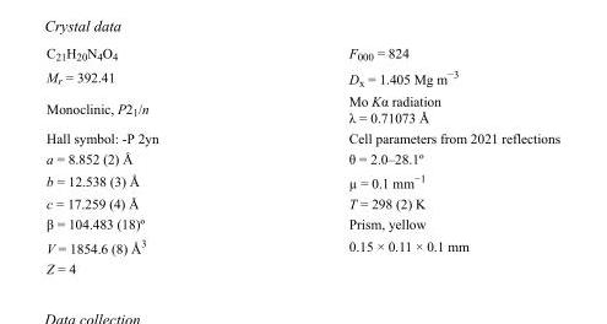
<table><tbody><tr><td>C<sub>21</sub>H<sub>20</sub>N<sub>4</sub>O<sub>4</sub></td><td>F<sub>000</sub> = 824</td></tr><tr><td>M<sub>r</sub> = 392.41</td><td>D<sub>x</sub> = 1.405 Mg m<sup>−3</sup></td></tr><tr><td>Monoclinic, P2<sub>1</sub>/n</td><td>Mo Kα radiation λ = 0.71073 Å</td></tr><tr><td>Hall symbol: -P 2yn</td><td>Cell parameters from 2021 reflections</td></tr><tr><td>a = 8.852 (2) Å</td><td>θ = 2.0–28.1º</td></tr><tr><td>b = 12.538 (3) Å</td><td>µ = 0.1 mm<sup>−1</sup></td></tr><tr><td>c = 17.259 (4) Å</td><td>T = 298 (2) K</td></tr><tr><td>β = 104.483 (18)º</td><td>Prism, yellow</td></tr><tr><td>V = 1854.6 (8) Å<sup>3</sup></td><td>0.15 × 0.11 × 0.1 mm</td></tr><tr><td>Z = 4</td><td></td></tr></tbody></table>